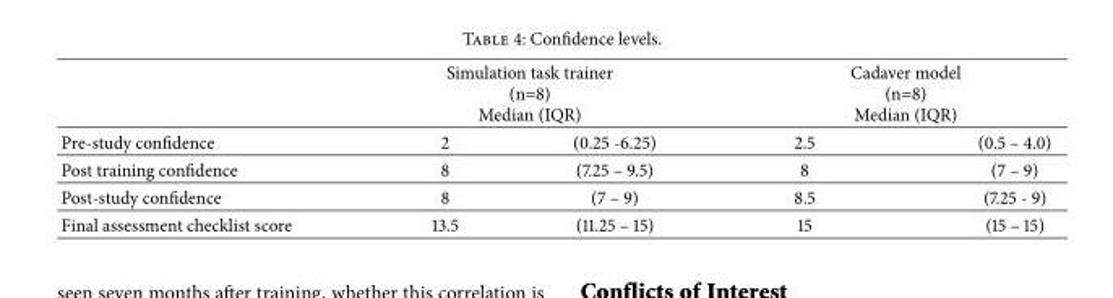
<table><thead><tr><td rowspan="2">Pre-study confidence</td><td colspan="2">Simulation task trainer (n=8) Median (IQR)</td><td colspan="2">Cadaver model (n=8) Median (IQR)</td></tr><tr><td>2</td><td>(0.25 -6.25)</td><td>2.5</td><td>(0.5 – 4.0)</td></tr></thead><tbody><tr><td>Post training confidence</td><td>8</td><td>(7.25 – 9.5)</td><td>8</td><td>(7 – 9)</td></tr><tr><td>Post-study confidence</td><td>8</td><td>(7 – 9)</td><td>8.5</td><td>(7.25 - 9)</td></tr><tr><td>Final assessment checklist score</td><td>13.5</td><td>(11.25 – 15)</td><td>15</td><td>(15 – 15)</td></tr></tbody></table>